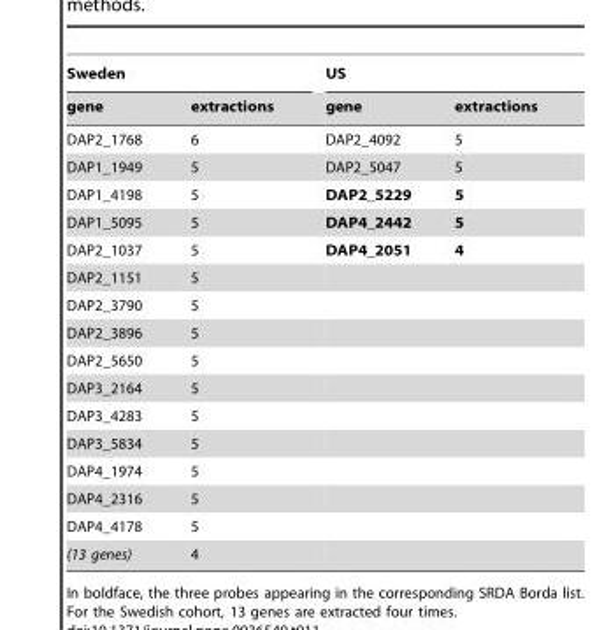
<table><thead><tr><td colspan="2">Sweden</td><td colspan="2">US</td></tr><tr><td>gene</td><td>extractions</td><td>gene</td><td>extractions</td></tr></thead><tbody><tr><td>DAP2_1768</td><td>6</td><td>DAP2_4092</td><td>5</td></tr><tr><td>DAP1_1949</td><td>5</td><td>DAP2_5047</td><td>5</td></tr><tr><td>DAP1_4198</td><td>5</td><td>DAP2_5229</td><td>5</td></tr><tr><td>DAP1_5095</td><td>5</td><td>DAP4_2442</td><td>5</td></tr><tr><td>DAP2_1037</td><td>5</td><td>DAP4_2051</td><td>4</td></tr><tr><td>DAP2_1151</td><td>5</td><td></td><td></td></tr><tr><td>DAP2_3790</td><td>5</td><td></td><td></td></tr><tr><td>DAP2_3896</td><td>5</td><td></td><td></td></tr><tr><td>DAP2_5650</td><td>5</td><td></td><td></td></tr><tr><td>DAP3_2164</td><td>5</td><td></td><td></td></tr><tr><td>DAP3_4283</td><td>5</td><td></td><td></td></tr><tr><td>DAP3_5834</td><td>5</td><td></td><td></td></tr><tr><td>DAP4_1974</td><td>5</td><td></td><td></td></tr><tr><td>DAP4_2316</td><td>5</td><td></td><td></td></tr><tr><td>DAP4_4178</td><td>5</td><td></td><td></td></tr><tr><td>(13 genes)</td><td>4</td><td></td><td></td></tr></tbody></table>